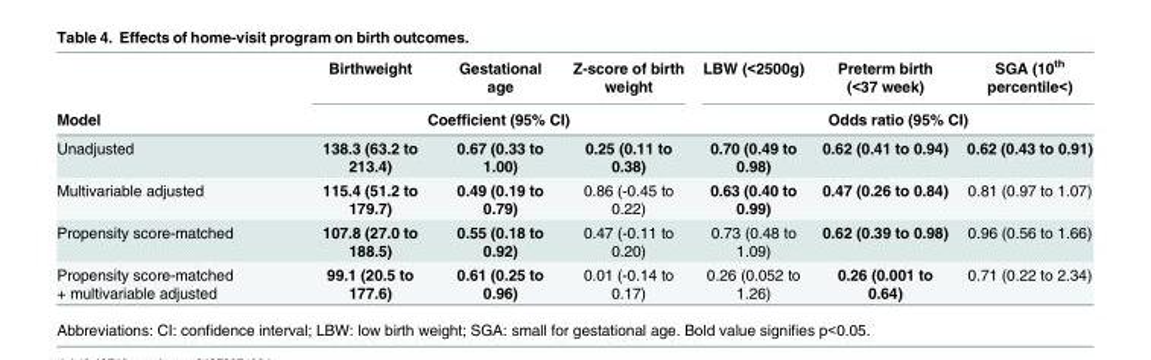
<table><thead><tr><td rowspan="2">Model</td><td>Birthweight</td><td>Gestational age</td><td>Z-score of birth weight</td><td>LBW (&lt;2500g)</td><td>Preterm birth (&lt;37 week)</td><td>SGA (10<sup>th</sup> percentile&lt;)</td></tr><tr><td colspan="3">Coefficient (95% CI)</td><td colspan="3">Odds ratio (95% CI)</td></tr></thead><tbody><tr><td>Unadjusted</td><td>138.3 (63.2 to 213.4)</td><td>0.67 (0.33 to 1.00)</td><td>0.25 (0.11 to 0.38)</td><td>0.70 (0.49 to 0.98)</td><td>0.62 (0.41 to 0.94)</td><td>0.62 (0.43 to 0.91)</td></tr><tr><td>Multivariable adjusted</td><td>115.4 (51.2 to 179.7)</td><td>0.49 (0.19 to 0.79)</td><td>0.86 (-0.45 to 0.22)</td><td>0.63 (0.40 to 0.99)</td><td>0.47 (0.26 to 0.84)</td><td>0.81 (0.97 to 1.07)</td></tr><tr><td>Propensity score-matched</td><td>107.8 (27.0 to 188.5)</td><td>0.55 (0.18 to 0.92)</td><td>0.47 (-0.11 to 0.20)</td><td>0.73 (0.48 to 1.09)</td><td>0.62 (0.39 to 0.98)</td><td>0.96 (0.56 to 1.66)</td></tr><tr><td>Propensity score-matched + multivariable adjusted</td><td>99.1 (20.5 to 177.6)</td><td>0.61 (0.25 to 0.96)</td><td>0.01 (-0.14 to 0.17)</td><td>0.26 (0.052 to 1.26)</td><td>0.26 (0.001 to 0.64)</td><td>0.71 (0.22 to 2.34)</td></tr></tbody></table>